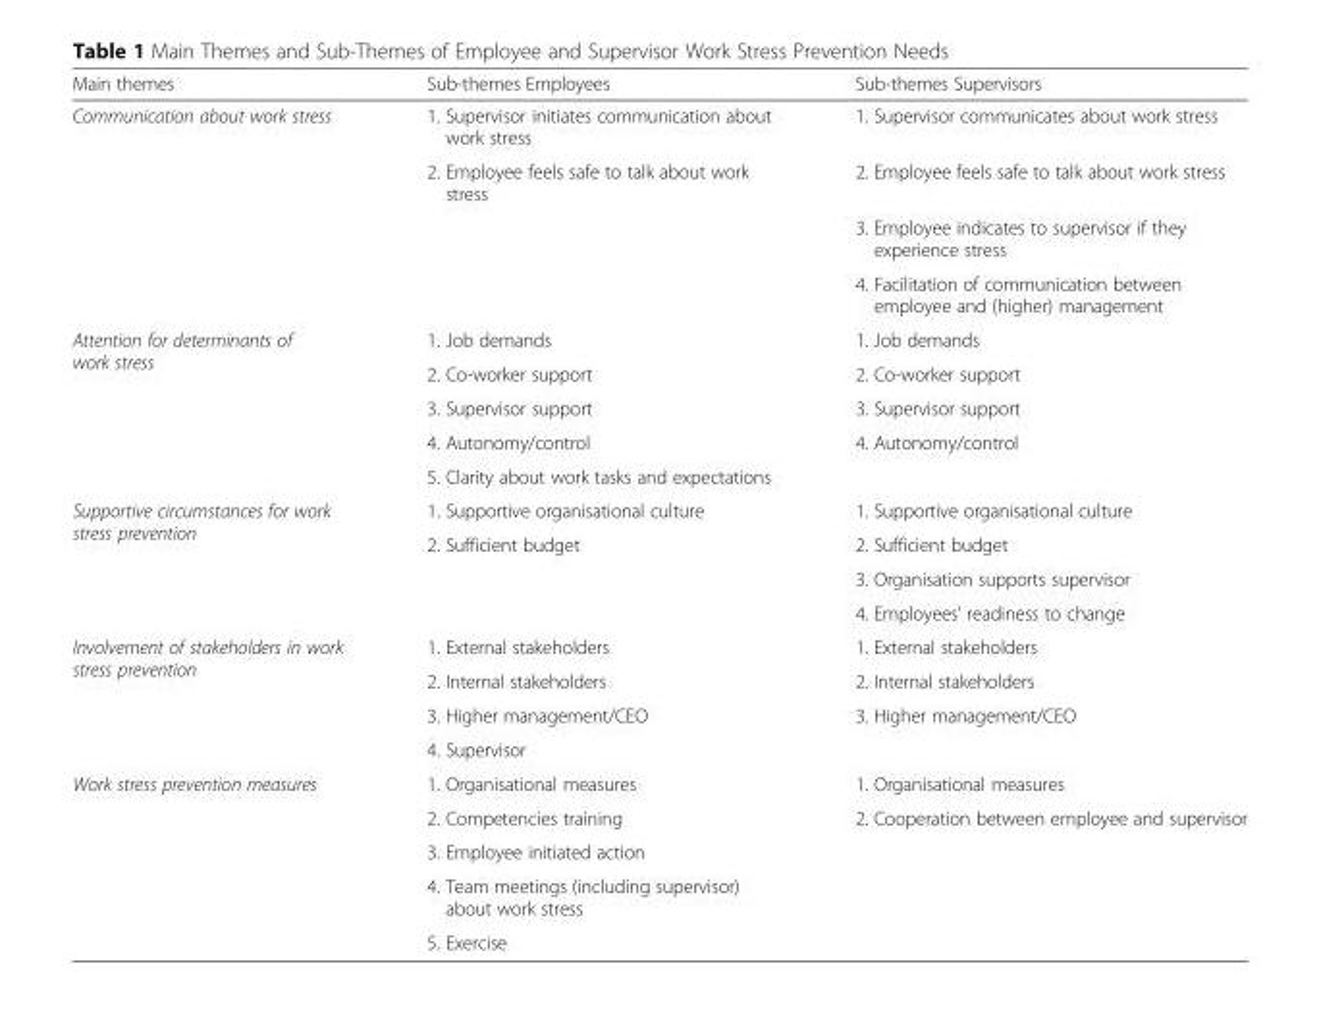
<table><thead><tr><td>Main themes</td><td>Sub-themes Employees</td><td>Sub-themes Supervisors</td></tr></thead><tbody><tr><td rowspan="4">Communication about work stress</td><td>1. Supervisor initiates communication about work stress</td><td>1. Supervisor communicates about work stress</td></tr><tr><td>2. Employee feels safe to talk about work stress</td><td>2. Employee feels safe to talk about work stress</td></tr><tr><td></td><td>3. Employee indicates to supervisor if they experience stress</td></tr><tr><td></td><td>4. Facilitation of communication between employee and (higher) management</td></tr><tr><td rowspan="5">Attention for determinants of work stress</td><td>1. Job demands</td><td>1. Job demands</td></tr><tr><td>2. Co-worker support</td><td>2. Co-worker support</td></tr><tr><td>3. Supervisor support</td><td>3. Supervisor support</td></tr><tr><td>4. Autonomy/control</td><td>4. Autonomy/control</td></tr><tr><td>5. Clarity about work tasks and expectations</td><td></td></tr><tr><td rowspan="4">Supportive circumstances for work stress prevention</td><td>1. Supportive organisational culture</td><td>1. Supportive organisational culture</td></tr><tr><td>2. Sufficient budget</td><td>2. Sufficient budget</td></tr><tr><td></td><td>3. Organisation supports supervisor</td></tr><tr><td></td><td>4. Employees’ readiness to change</td></tr><tr><td rowspan="4">Involvement of stakeholders in work stress prevention</td><td>1. External stakeholders</td><td>1. External stakeholders</td></tr><tr><td>2. Internal stakeholders</td><td>2. Internal stakeholders</td></tr><tr><td>3. Higher management/CEO</td><td>3. Higher management/CEO</td></tr><tr><td>4. Supervisor</td><td></td></tr><tr><td rowspan="5">Work stress prevention measures</td><td>1. Organisational measures</td><td>1. Organisational measures</td></tr><tr><td>2. Competencies training</td><td>2. Cooperation between employee and supervisor</td></tr><tr><td>3. Employee initiated action</td><td></td></tr><tr><td>4. Team meetings (including supervisor) about work stress</td><td></td></tr><tr><td>5. Exercise</td><td></td></tr></tbody></table>